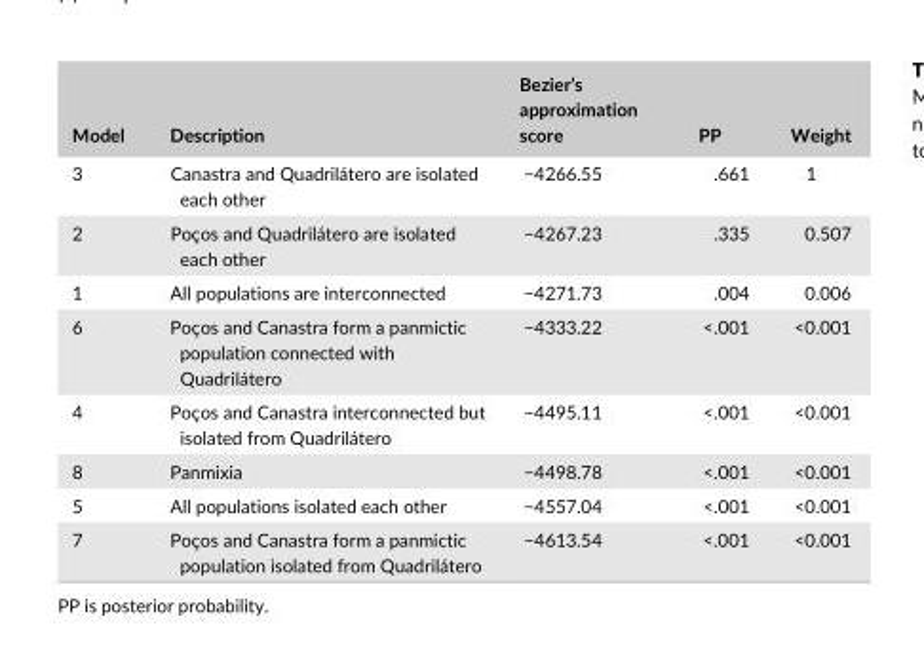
<table><thead><tr><td>Model</td><td>Description</td><td>Bezier’s approximation score</td><td>PP</td><td>Weight</td></tr></thead><tbody><tr><td>3</td><td>Canastra and Quadrilátero are isolated each other</td><td>−4266.55</td><td>.661</td><td>1</td></tr><tr><td>2</td><td>Poços and Quadrilátero are isolated each other</td><td>−4267.23</td><td>.335</td><td>0.507</td></tr><tr><td>1</td><td>All populations are interconnected</td><td>−4271.73</td><td>.004</td><td>0.006</td></tr><tr><td>6</td><td>Poços and Canastra form a panmictic population connected with Quadrilátero</td><td>−4333.22</td><td>&lt;.001</td><td>&lt;0.001</td></tr><tr><td>4</td><td>Poços and Canastra interconnected but isolated from Quadrilátero</td><td>−4495.11</td><td>&lt;.001</td><td>&lt;0.001</td></tr><tr><td>8</td><td>Panmixia</td><td>−4498.78</td><td>&lt;.001</td><td>&lt;0.001</td></tr><tr><td>5</td><td>All populations isolated each other</td><td>−4557.04</td><td>&lt;.001</td><td>&lt;0.001</td></tr><tr><td>7</td><td>Poços and Canastra form a panmictic population isolated from Quadrilátero</td><td>−4613.54</td><td>&lt;.001</td><td>&lt;0.001</td></tr></tbody></table>